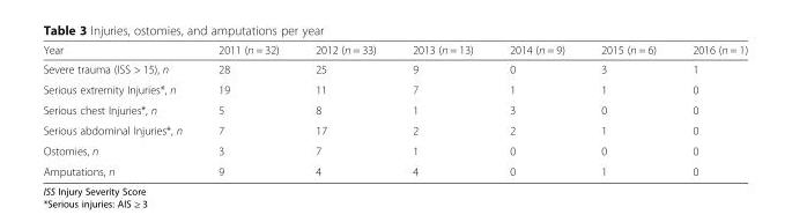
<table><thead><tr><td>Year</td><td>2011 (n = 32)</td><td>2012 (n = 33)</td><td>2013 (n = 13)</td><td>2014 (n = 9)</td><td>2015 (n = 6)</td><td>2016 (n = 1)</td></tr></thead><tbody><tr><td>Severe trauma (ISS &gt; 15), n</td><td>28</td><td>25</td><td>9</td><td>0</td><td>3</td><td>1</td></tr><tr><td>Serious extremity Injuries*, n</td><td>19</td><td>11</td><td>7</td><td>1</td><td>1</td><td>0</td></tr><tr><td>Serious chest Injuries*, n</td><td>5</td><td>8</td><td>1</td><td>3</td><td>0</td><td>0</td></tr><tr><td>Serious abdominal Injuries*, n</td><td>7</td><td>17</td><td>2</td><td>2</td><td>1</td><td>0</td></tr><tr><td>Ostomies, n</td><td>3</td><td>7</td><td>1</td><td>0</td><td>0</td><td>0</td></tr><tr><td>Amputations, n</td><td>9</td><td>4</td><td>4</td><td>0</td><td>1</td><td>0</td></tr></tbody></table>